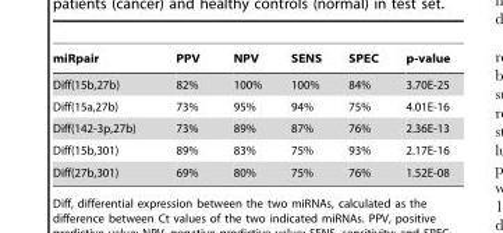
<table><thead><tr><td>miRpair</td><td>PPV</td><td>NPV</td><td>SENS</td><td>SPEC</td><td>p-value</td></tr></thead><tbody><tr><td>Diff(15b,27b)</td><td>82%</td><td>100%</td><td>100%</td><td>84%</td><td>3.70E-25</td></tr><tr><td>Diff(15a,27b)</td><td>73%</td><td>95%</td><td>94%</td><td>75%</td><td>4.01E-16</td></tr><tr><td>Diff(142-3p,27b)</td><td>73%</td><td>89%</td><td>87%</td><td>76%</td><td>2.36E-13</td></tr><tr><td>Diff(15b,301)</td><td>89%</td><td>83%</td><td>75%</td><td>93%</td><td>2.17E-16</td></tr><tr><td>Diff(27b,301)</td><td>69%</td><td>80%</td><td>75%</td><td>76%</td><td>1.52E-08</td></tr></tbody></table>